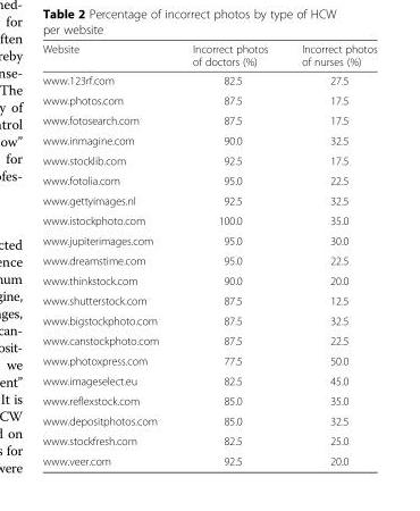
<table><thead><tr><td>Website</td><td>Incorrect photos of doctors (%)</td><td>Incorrect photos of nurses (%)</td></tr></thead><tbody><tr><td>www.123rf.com</td><td>82.5</td><td>27.5</td></tr><tr><td>www.photos.com</td><td>87.5</td><td>17.5</td></tr><tr><td>www.fotosearch.com</td><td>87.5</td><td>17.5</td></tr><tr><td>www.inmagine.com</td><td>90.0</td><td>32.5</td></tr><tr><td>www.stocklib.com</td><td>92.5</td><td>17.5</td></tr><tr><td>www.fotolia.com</td><td>95.0</td><td>22.5</td></tr><tr><td>www.gettyimages.nl</td><td>92.5</td><td>32.5</td></tr><tr><td>www.istockphoto.com</td><td>100.0</td><td>35.0</td></tr><tr><td>www.jupiterimages.com</td><td>95.0</td><td>30.0</td></tr><tr><td>www.dreamstime.com</td><td>95.0</td><td>22.5</td></tr><tr><td>www.thinkstock.com</td><td>90.0</td><td>20.0</td></tr><tr><td>www.shutterstock.com</td><td>87.5</td><td>12.5</td></tr><tr><td>www.bigstockphoto.com</td><td>87.5</td><td>32.5</td></tr><tr><td>www.canstockphoto.com</td><td>87.5</td><td>22.5</td></tr><tr><td>www.photoxpress.com</td><td>77.5</td><td>50.0</td></tr><tr><td>www.imageselect.eu</td><td>82.5</td><td>45.0</td></tr><tr><td>www.reflexstock.com</td><td>85.0</td><td>35.0</td></tr><tr><td>www.depositphotos.com</td><td>85.0</td><td>32.5</td></tr><tr><td>www.stockfresh.com</td><td>82.5</td><td>25.0</td></tr><tr><td>www.veer.com</td><td>92.5</td><td>20.0</td></tr></tbody></table>